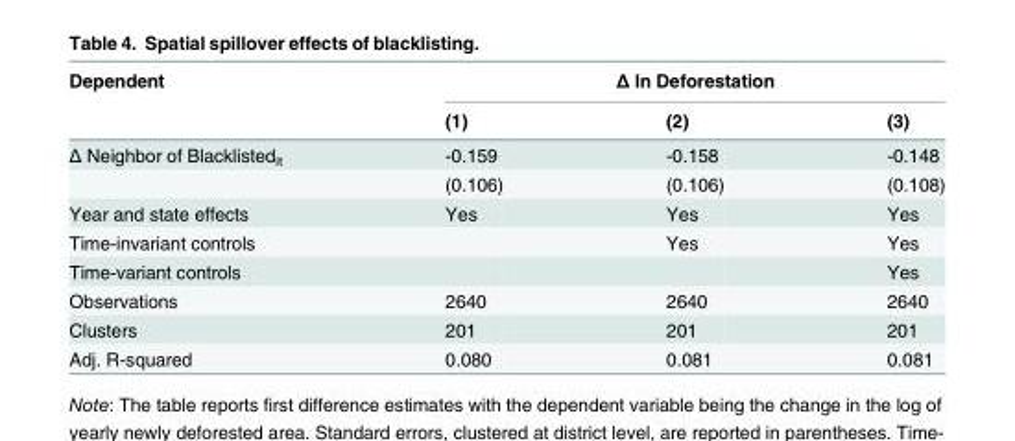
<table><thead><tr><td rowspan="2">Dependent</td><td colspan="3">Δ ln Deforestation</td></tr><tr><td>(1)</td><td>(2)</td><td>(3)</td></tr></thead><tbody><tr><td rowspan="2">Δ Neighbor of Blacklisted<sub>it</sub></td><td>-0.159</td><td>-0.158</td><td>-0.148</td></tr><tr><td>(0.106)</td><td>(0.106)</td><td>(0.108)</td></tr><tr><td>Year and state effects</td><td>Yes</td><td>Yes</td><td>Yes</td></tr><tr><td>Time-invariant controls</td><td></td><td>Yes</td><td>Yes</td></tr><tr><td>Time-variant controls</td><td></td><td></td><td>Yes</td></tr><tr><td>Observations</td><td>2640</td><td>2640</td><td>2640</td></tr><tr><td>Clusters</td><td>201</td><td>201</td><td>201</td></tr><tr><td>Adj. R-squared</td><td>0.080</td><td>0.081</td><td>0.081</td></tr></tbody></table>